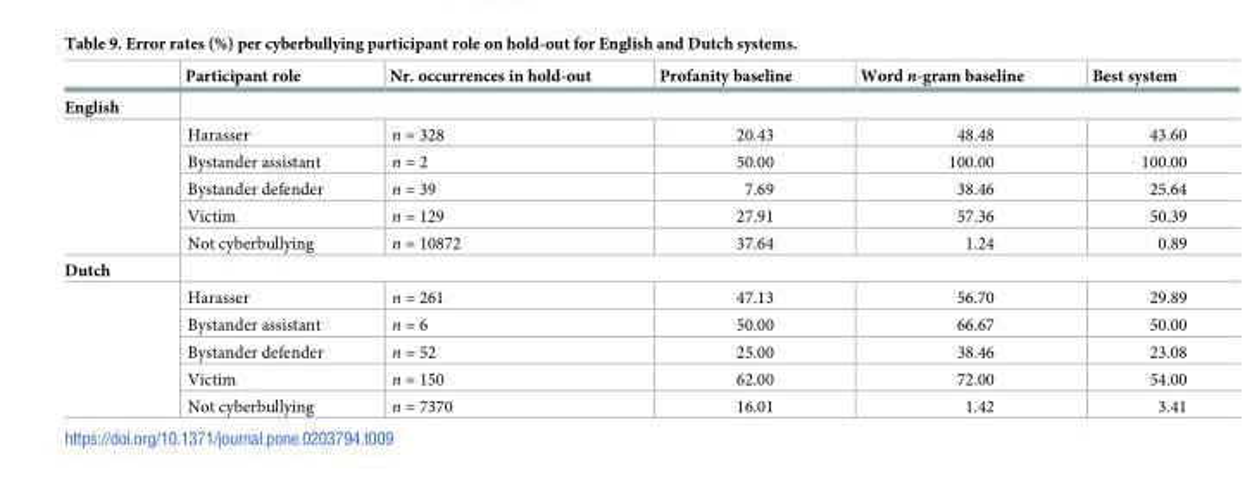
<table><thead><tr><td></td><td>Participant role</td><td>Nr. occurrences in hold-out</td><td>Profanity baseline</td><td>Word n-gram baseline</td><td>Best system</td></tr></thead><tbody><tr><td colspan="6">English</td></tr><tr><td rowspan="5"></td><td>Harasser</td><td>n = 328</td><td>20.43</td><td>48.48</td><td>43.60</td></tr><tr><td>Bystander assistant</td><td>n = 2</td><td>50.00</td><td>100.00</td><td>100.00</td></tr><tr><td>Bystander defender</td><td>n = 39</td><td>7.69</td><td>38.46</td><td>25.64</td></tr><tr><td>Victim</td><td>n = 129</td><td>27.91</td><td>57.36</td><td>50.39</td></tr><tr><td>Not cyberbullying</td><td>n = 10872</td><td>37.64</td><td>1.24</td><td>0.89</td></tr><tr><td colspan="6">Dutch</td></tr><tr><td rowspan="5"></td><td>Harasser</td><td>n = 261</td><td>47.13</td><td>56.70</td><td>29.89</td></tr><tr><td>Bystander assistant</td><td>n = 6</td><td>50.00</td><td>66.67</td><td>50.00</td></tr><tr><td>Bystander defender</td><td>n = 52</td><td>25.00</td><td>38.46</td><td>23.08</td></tr><tr><td>Victim</td><td>n = 150</td><td>62.00</td><td>72.00</td><td>54.00</td></tr><tr><td>Not cyberbullying</td><td>n = 7370</td><td>16.01</td><td>1.42</td><td>3.41</td></tr></tbody></table>